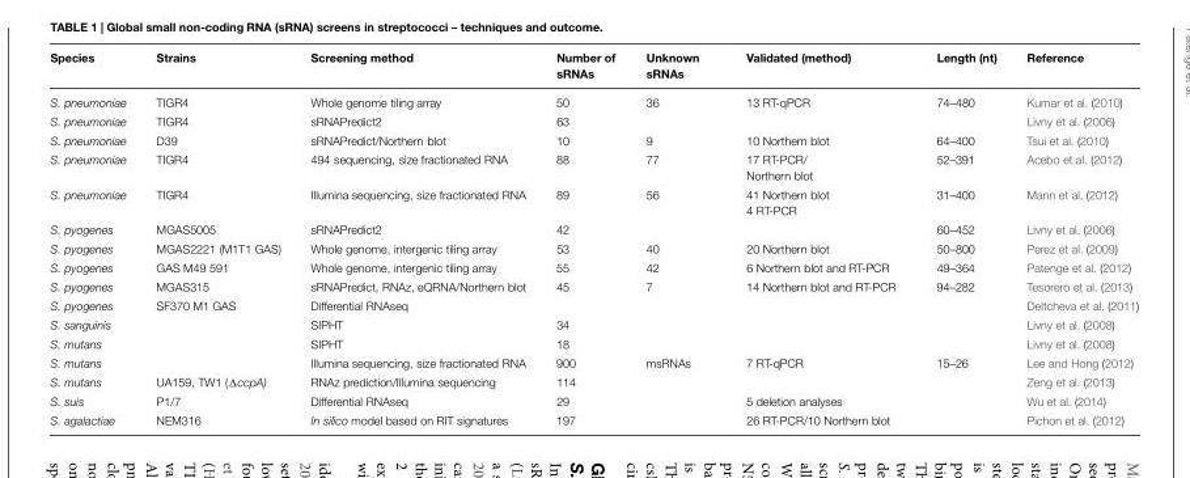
<table><thead><tr><td>Species</td><td>Strains</td><td>Screening method</td><td>Number of sRNAs</td><td>Unknown sRNAs</td><td>Validated (method)</td><td>Length (nt)</td><td>Reference</td></tr></thead><tbody><tr><td>S. pneumoniae</td><td>TIGR4</td><td>Whole genome tiling array</td><td>50</td><td>36</td><td>13 RT-qPCR</td><td>74–480</td><td>Kumar et al. (2010)</td></tr><tr><td>S. pneumoniae</td><td>TIGR4</td><td>sRNAPredict2</td><td>63</td><td></td><td></td><td></td><td>Livny et al. (2006)</td></tr><tr><td>S. pneumoniae</td><td>D39</td><td>sRNAPredict/Northern blot</td><td>10</td><td>9</td><td>10 Northern blot</td><td>64–400</td><td>Tsui et al. (2010)</td></tr><tr><td>S. pneumoniae</td><td>TIGR4</td><td>494 sequencing, size fractionated RNA</td><td>88</td><td>77</td><td>17 RT-PCR/ Northern blot</td><td>52–391</td><td>Acebo et al. (2012)</td></tr><tr><td>S. pneumoniae</td><td>TIGR4</td><td>Illumina sequencing, size fractionated RNA</td><td>89</td><td>56</td><td>41 Northern blot 4 RT-PCR</td><td>31–400</td><td>Mann et al. (2012)</td></tr><tr><td>S. pyogenes</td><td>MGAS5005</td><td>sRNAPredict2</td><td>42</td><td></td><td></td><td>60–452</td><td>Livny et al. (2006)</td></tr><tr><td>S. pyogenes</td><td>MGAS2221 (M1T1 GAS)</td><td>Whole genome, intergenic tiling array</td><td>53</td><td>40</td><td>20 Northern blot</td><td>50–800</td><td>Perez et al. (2009)</td></tr><tr><td>S. pyogenes</td><td>GAS M49 591</td><td>Whole genome, intergenic tiling array</td><td>55</td><td>42</td><td>6 Northern blot and RT-PCR</td><td>49–364</td><td>Patenge et al. (2012)</td></tr><tr><td>S. pyogenes</td><td>MGAS315</td><td>sRNAPredict, RNAz, eQRNA/Northern blot</td><td>45</td><td>7</td><td>14 Northern blot and RT-PCR</td><td>94–282</td><td>Tesorero et al. (2013)</td></tr><tr><td>S. pyogenes</td><td>SF370 M1 GAS</td><td>Differential RNAseq</td><td></td><td></td><td></td><td></td><td>Deltcheva et al. (2011)</td></tr><tr><td>S. sanguinis</td><td></td><td>SIPHT</td><td>34</td><td></td><td></td><td></td><td>Livny et al. (2008)</td></tr><tr><td>S. mutans</td><td></td><td>SIPHT</td><td>18</td><td></td><td></td><td></td><td>Livny et al. (2008)</td></tr><tr><td>S. mutans</td><td></td><td>Illumina sequencing, size fractionated RNA</td><td>900</td><td>msRNAs</td><td>7 RT-qPCR</td><td>15–26</td><td>Lee and Hong (2012)</td></tr><tr><td>S. mutans</td><td>UA159, TW1 (ΔccpA)</td><td>RNAz prediction/Illumina sequencing</td><td>114</td><td></td><td></td><td></td><td>Zeng et al. (2013)</td></tr><tr><td>S. suis</td><td>P1/7</td><td>Differential RNAseq</td><td>29</td><td></td><td>5 deletion analyses</td><td></td><td>Wu et al. (2014)</td></tr><tr><td>S. agalactiae</td><td>NEM316</td><td>In silico model based on RIT signatures</td><td>197</td><td></td><td>26 RT-PCR/10 Northern blot</td><td></td><td>Pichon et al. (2012)</td></tr></tbody></table>